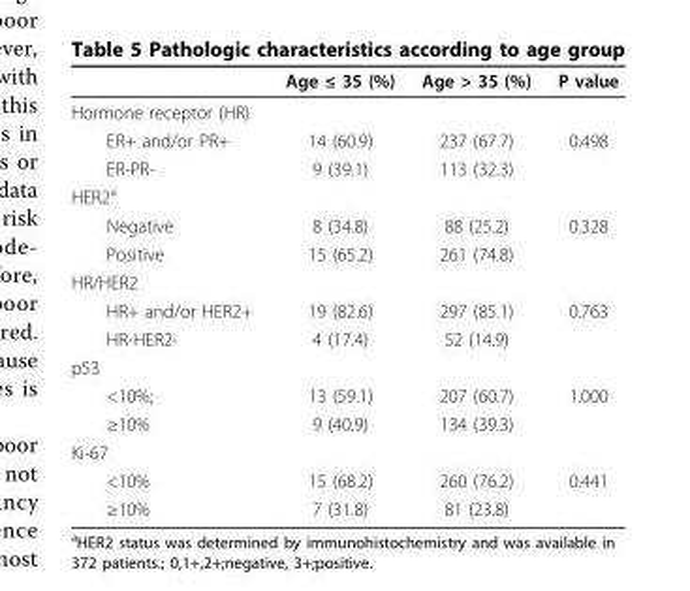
<table><thead><tr><td></td><td>Age ≤ 35 (%)</td><td>Age &gt; 35 (%)</td><td>P value</td></tr></thead><tbody><tr><td colspan="4">Hormone receptor (HR)</td></tr><tr><td>ER+ and/or PR+</td><td>14 (60.9)</td><td>237 (67.7)</td><td>0.498</td></tr><tr><td>ER-PR-</td><td>9 (39.1)</td><td>113 (32.3)</td><td></td></tr><tr><td colspan="4">HER2<sup>a</sup></td></tr><tr><td>Negative</td><td>8 (34.8)</td><td>88 (25.2)</td><td>0.328</td></tr><tr><td>Positive</td><td>15 (65.2)</td><td>261 (74.8)</td><td></td></tr><tr><td colspan="4">HR/HER2</td></tr><tr><td>HR+ and/or HER2+</td><td>19 (82.6)</td><td>297 (85.1)</td><td>0.763</td></tr><tr><td>HR-HER2-</td><td>4 (17.4)</td><td>52 (14.9)</td><td></td></tr><tr><td colspan="4">p53</td></tr><tr><td>&lt;10%;</td><td>13 (59.1)</td><td>207 (60.7)</td><td>1.000</td></tr><tr><td>≥10%</td><td>9 (40.9)</td><td>134 (39.3)</td><td></td></tr><tr><td colspan="4">Ki-67</td></tr><tr><td>&lt;10%</td><td>15 (68.2)</td><td>260 (76.2)</td><td>0.441</td></tr><tr><td>≥10%</td><td>7 (31.8)</td><td>81 (23.8)</td><td></td></tr></tbody></table>